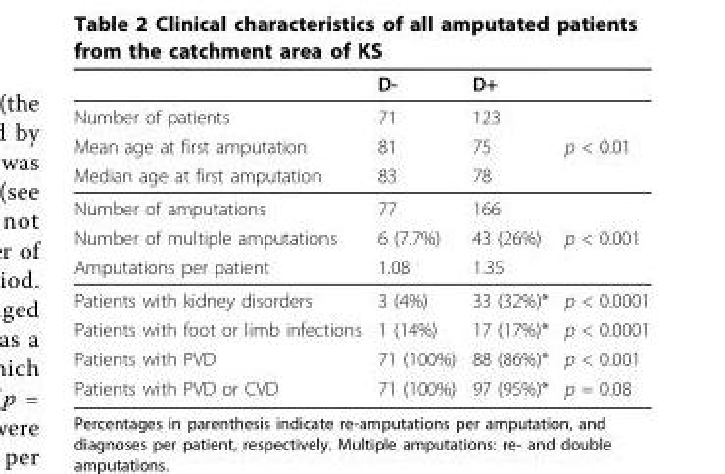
<table><thead><tr><td></td><td>D-</td><td>D+</td><td></td></tr></thead><tbody><tr><td>Number of patients</td><td>71</td><td>123</td><td></td></tr><tr><td>Mean age at first amputation</td><td>81</td><td>75</td><td>p &lt; 0.01</td></tr><tr><td>Median age at first amputation</td><td>83</td><td>78</td><td></td></tr><tr><td>Number of amputations</td><td>77</td><td>166</td><td></td></tr><tr><td>Number of multiple amputations</td><td>6 (7.7%)</td><td>43 (26%)</td><td>p &lt; 0.001</td></tr><tr><td>Amputations per patient</td><td>1.08</td><td>1.35</td><td></td></tr><tr><td>Patients with kidney disorders</td><td>3 (4%)</td><td>33 (32%)*</td><td>p &lt; 0.0001</td></tr><tr><td>Patients with foot or limb infections</td><td>1 (14%)</td><td>17 (17%)*</td><td>p &lt; 0.0001</td></tr><tr><td>Patients with PVD</td><td>71 (100%)</td><td>88 (86%)*</td><td>p &lt; 0.001</td></tr><tr><td>Patients with PVD or CVD</td><td>71 (100%)</td><td>97 (95%)*</td><td>p = 0.08</td></tr></tbody></table>